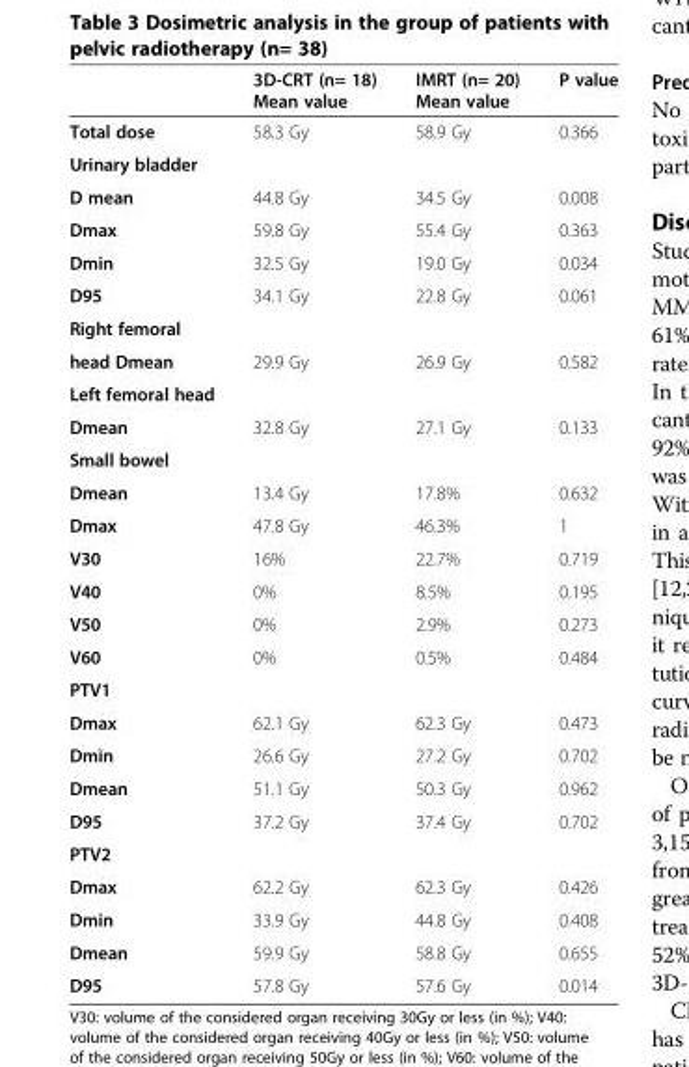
<table><thead><tr><td></td><td>3D-CRT (n= 18) Mean value</td><td>IMRT (n= 20) Mean value</td><td>P value</td></tr></thead><tbody><tr><td>Total dose</td><td>58.3 Gy</td><td>58.9 Gy</td><td>0.366</td></tr><tr><td colspan="4">Urinary bladder</td></tr><tr><td>D mean</td><td>44.8 Gy</td><td>34.5 Gy</td><td>0.008</td></tr><tr><td>Dmax</td><td>59.8 Gy</td><td>55.4 Gy</td><td>0.363</td></tr><tr><td>Dmin</td><td>32.5 Gy</td><td>19.0 Gy</td><td>0.034</td></tr><tr><td>D95</td><td>34.1 Gy</td><td>22.8 Gy</td><td>0.061</td></tr><tr><td colspan="4">Right femoral</td></tr><tr><td>head Dmean</td><td>29.9 Gy</td><td>26.9 Gy</td><td>0.582</td></tr><tr><td colspan="4">Left femoral head</td></tr><tr><td>Dmean</td><td>32.8 Gy</td><td>27.1 Gy</td><td>0.133</td></tr><tr><td colspan="4">Small bowel</td></tr><tr><td>Dmean</td><td>13.4 Gy</td><td>17.8%</td><td>0.632</td></tr><tr><td>Dmax</td><td>47.8 Gy</td><td>46.3%</td><td>1</td></tr><tr><td>V30</td><td>16%</td><td>22.7%</td><td>0.719</td></tr><tr><td>V40</td><td>0%</td><td>8.5%</td><td>0.195</td></tr><tr><td>V50</td><td>0%</td><td>2.9%</td><td>0.273</td></tr><tr><td>V60</td><td>0%</td><td>0.5%</td><td>0.484</td></tr><tr><td colspan="4">PTV1</td></tr><tr><td>Dmax</td><td>62.1 Gy</td><td>62.3 Gy</td><td>0.473</td></tr><tr><td>Dmin</td><td>26.6 Gy</td><td>27.2 Gy</td><td>0.702</td></tr><tr><td>Dmean</td><td>51.1 Gy</td><td>50.3 Gy</td><td>0.962</td></tr><tr><td>D95</td><td>37.2 Gy</td><td>37.4 Gy</td><td>0.702</td></tr><tr><td colspan="4">PTV2</td></tr><tr><td>Dmax</td><td>62.2 Gy</td><td>62.3 Gy</td><td>0.426</td></tr><tr><td>Dmin</td><td>33.9 Gy</td><td>44.8 Gy</td><td>0.408</td></tr><tr><td>Dmean</td><td>59.9 Gy</td><td>58.8 Gy</td><td>0.655</td></tr><tr><td>D95</td><td>57.8 Gy</td><td>57.6 Gy</td><td>0.014</td></tr></tbody></table>